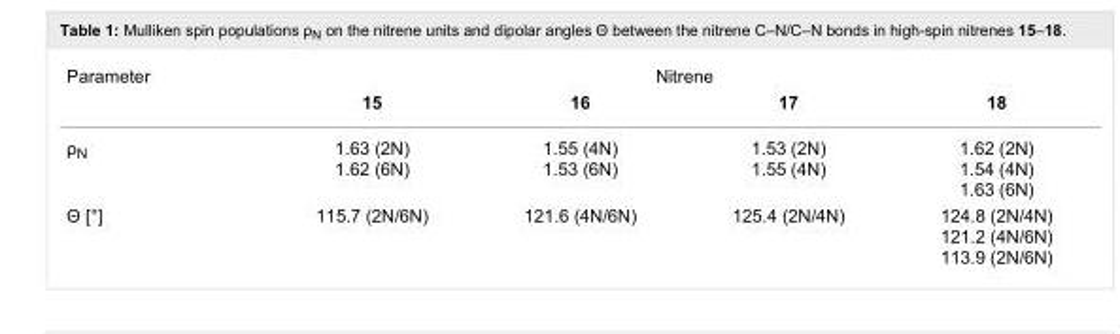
<table><tbody><tr><td rowspan="2">Parameter</td><td colspan="4">Nitrene</td></tr><tr><td>15</td><td>16</td><td>17</td><td>18</td></tr><tr><td>ρ<sub>N</sub></td><td>1.63 (2N) 1.62 (6N)</td><td>1.55 (4N) 1.53 (6N)</td><td>1.53 (2N) 1.55 (4N)</td><td>1.62 (2N) 1.54 (4N) 1.63 (6N)</td></tr><tr><td>Θ [°]</td><td>115.7 (2N/6N)</td><td>121.6 (4N/6N)</td><td>125.4 (2N/4N)</td><td>124.8 (2N/4N) 121.2 (4N/6N) 113.9 (2N/6N)</td></tr></tbody></table>